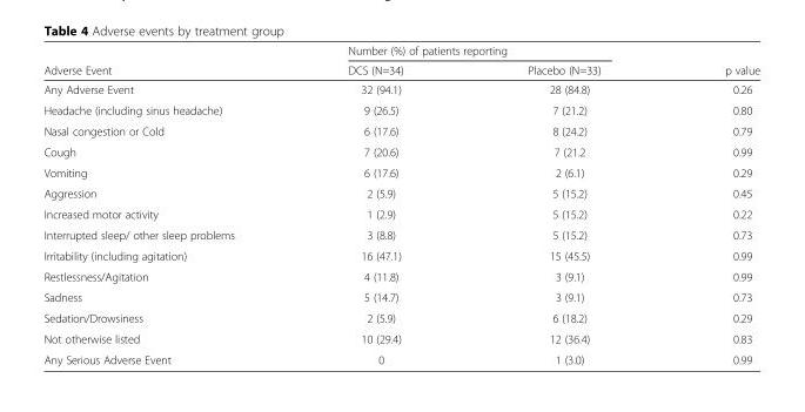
<table><thead><tr><td rowspan="2">Adverse Event</td><td colspan="2">Number (%) of patients reporting</td><td rowspan="2">p value</td></tr><tr><td>DCS (N=34)</td><td>Placebo (N=33)</td></tr></thead><tbody><tr><td>Any Adverse Event</td><td>32 (94.1)</td><td>28 (84.8)</td><td>0.26</td></tr><tr><td>Headache (including sinus headache)</td><td>9 (26.5)</td><td>7 (21.2)</td><td>0.80</td></tr><tr><td>Nasal congestion or Cold</td><td>6 (17.6)</td><td>8 (24.2)</td><td>0.79</td></tr><tr><td>Cough</td><td>7 (20.6)</td><td>7 (21.2</td><td>0.99</td></tr><tr><td>Vomiting</td><td>6 (17.6)</td><td>2 (6.1)</td><td>0.29</td></tr><tr><td>Aggression</td><td>2 (5.9)</td><td>5 (15.2)</td><td>0.45</td></tr><tr><td>Increased motor activity</td><td>1 (2.9)</td><td>5 (15.2)</td><td>0.22</td></tr><tr><td>Interrupted sleep/ other sleep problems</td><td>3 (8.8)</td><td>5 (15.2)</td><td>0.73</td></tr><tr><td>Irritability (including agitation)</td><td>16 (47.1)</td><td>15 (45.5)</td><td>0.99</td></tr><tr><td>Restlessness/Agitation</td><td>4 (11.8)</td><td>3 (9.1)</td><td>0.99</td></tr><tr><td>Sadness</td><td>5 (14.7)</td><td>3 (9.1)</td><td>0.73</td></tr><tr><td>Sedation/Drowsiness</td><td>2 (5.9)</td><td>6 (18.2)</td><td>0.29</td></tr><tr><td>Not otherwise listed</td><td>10 (29.4)</td><td>12 (36.4)</td><td>0.83</td></tr><tr><td>Any Serious Adverse Event</td><td>0</td><td>1 (3.0)</td><td>0.99</td></tr></tbody></table>